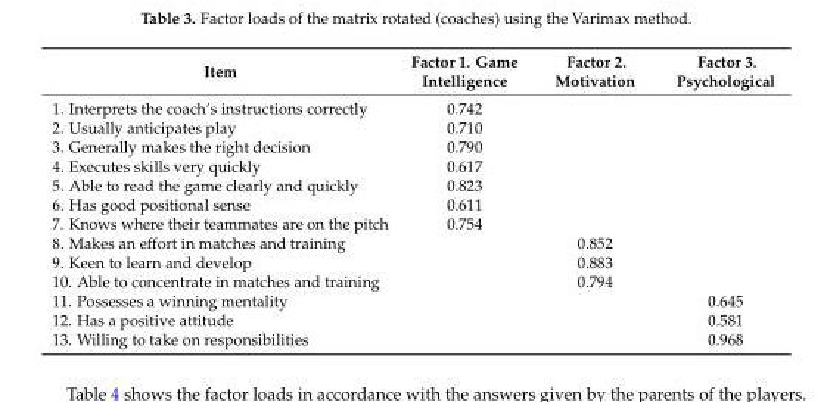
<table><thead><tr><td>Item</td><td>Factor 1. Game Intelligence</td><td>Factor 2. Motivation</td><td>Factor 3. Psychological</td></tr></thead><tbody><tr><td>1. Interprets the coach’s instructions correctly</td><td>0.742</td><td></td><td></td></tr><tr><td>2. Usually anticipates play</td><td>0.710</td><td></td><td></td></tr><tr><td>3. Generally makes the right decision</td><td>0.790</td><td></td><td></td></tr><tr><td>4. Executes skills very quickly</td><td>0.617</td><td></td><td></td></tr><tr><td>5. Able to read the game clearly and quickly</td><td>0.823</td><td></td><td></td></tr><tr><td>6. Has good positional sense</td><td>0.611</td><td></td><td></td></tr><tr><td>7. Knows where their teammates are on the pitch</td><td>0.754</td><td></td><td></td></tr><tr><td>8. Makes an effort in matches and training</td><td></td><td>0.852</td><td></td></tr><tr><td>9. Keen to learn and develop</td><td></td><td>0.883</td><td></td></tr><tr><td>10. Able to concentrate in matches and training</td><td></td><td>0.794</td><td></td></tr><tr><td>11. Possesses a winning mentality</td><td></td><td></td><td>0.645</td></tr><tr><td>12. Has a positive attitude</td><td></td><td></td><td>0.581</td></tr><tr><td>13. Willing to take on responsibilities</td><td></td><td></td><td>0.968</td></tr></tbody></table>